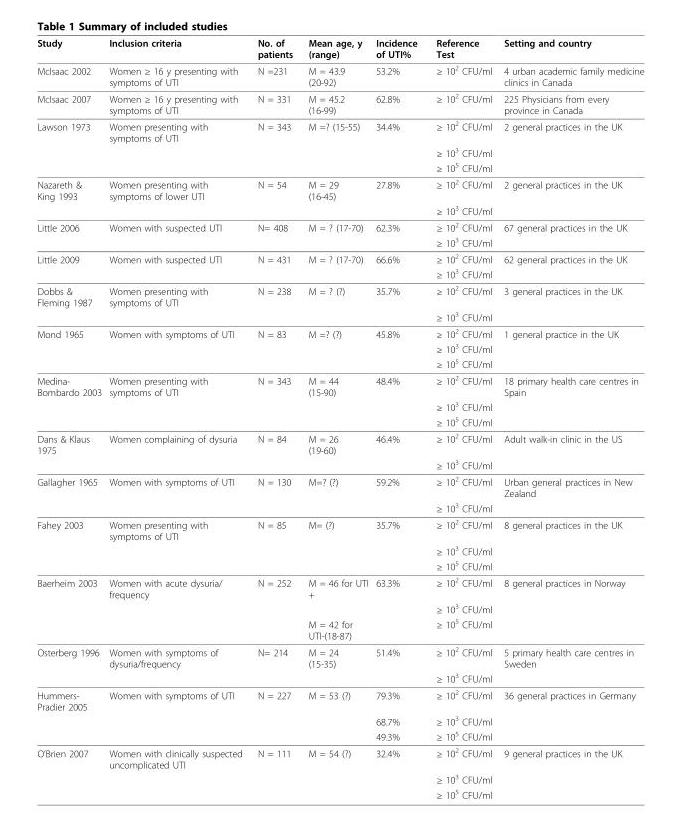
<table><thead><tr><td>Study</td><td>Inclusion criteria</td><td>No. of patients</td><td>Mean age, y (range)</td><td>Incidence of UTI%</td><td>Reference Test</td><td>Setting and country</td></tr></thead><tbody><tr><td>McIsaac 2002</td><td>Women ≥ 16 y presenting with symptoms of UTI</td><td>N =231</td><td>M = 43.9 (20-92)</td><td>53.2%</td><td>≥ 10<sup>2</sup> CFU/ml</td><td>4 urban academic family medicine clinics in Canada</td></tr><tr><td>McIsaac 2007</td><td>Women ≥ 16 y presenting with symptoms of UTI</td><td>N = 331</td><td>M = 45.2 (16-99)</td><td>62.8%</td><td>≥ 10<sup>2</sup> CFU/ml</td><td>225 Physicians from every province in Canada</td></tr><tr><td rowspan="3">Lawson 1973</td><td>Women presenting with symptoms of UTI</td><td>N = 343</td><td>M =? (15-55)</td><td>34.4%</td><td>≥ 10<sup>2</sup> CFU/ml</td><td>2 general practices in the UK</td></tr><tr><td></td><td></td><td></td><td></td><td>≥ 10<sup>3</sup> CFU/ml</td><td></td></tr><tr><td></td><td></td><td></td><td></td><td>≥ 10<sup>5</sup> CFU/ml</td><td></td></tr><tr><td rowspan="2">Nazareth &amp; King 1993</td><td>Women presenting with symptoms of lower UTI</td><td>N = 54</td><td>M = 29 (16-45)</td><td>27.8%</td><td>≥ 10<sup>2</sup> CFU/ml</td><td>2 general practices in the UK</td></tr><tr><td></td><td></td><td></td><td></td><td>≥ 10<sup>3</sup> CFU/ml</td><td></td></tr><tr><td rowspan="2">Little 2006</td><td>Women with suspected UTI</td><td>N= 408</td><td>M = ? (17-70)</td><td>62.3%</td><td>≥ 10<sup>2</sup> CFU/ml</td><td>67 general practices in the UK</td></tr><tr><td></td><td></td><td></td><td></td><td>≥ 10<sup>3</sup> CFU/ml</td><td></td></tr><tr><td rowspan="2">Little 2009</td><td>Women with suspected UTI</td><td>N = 431</td><td>M = ? (17-70)</td><td>66.6%</td><td>≥ 10<sup>2</sup> CFU/ml</td><td>62 general practices in the UK</td></tr><tr><td></td><td></td><td></td><td></td><td>≥ 10<sup>3</sup> CFU/ml</td><td></td></tr><tr><td rowspan="2">Dobbs &amp; Fleming 1987</td><td>Women presenting with symptoms of UTI</td><td>N = 238</td><td>M = ? (?)</td><td>35.7%</td><td>≥ 10<sup>2</sup> CFU/ml</td><td>3 general practices in the UK</td></tr><tr><td></td><td></td><td></td><td></td><td>≥ 10<sup>3</sup> CFU/ml</td><td></td></tr><tr><td rowspan="3">Mond 1965</td><td>Women with symptoms of UTI</td><td>N = 83</td><td>M =? (?)</td><td>45.8%</td><td>≥ 10<sup>2</sup> CFU/ml</td><td>1 general practice in the UK</td></tr><tr><td></td><td></td><td></td><td></td><td>≥ 10<sup>3</sup> CFU/ml</td><td></td></tr><tr><td></td><td></td><td></td><td></td><td>≥ 10<sup>5</sup> CFU/ml</td><td></td></tr><tr><td rowspan="3">Medina- Bombardo 2003</td><td>Women presenting with symptoms of UTI</td><td>N = 343</td><td>M = 44 (15-90)</td><td>48.4%</td><td>≥ 10<sup>2</sup> CFU/ml</td><td>18 primary health care centres in Spain</td></tr><tr><td></td><td></td><td></td><td></td><td>≥ 10<sup>3</sup> CFU/ml</td><td></td></tr><tr><td></td><td></td><td></td><td></td><td>≥ 10<sup>5</sup> CFU/ml</td><td></td></tr><tr><td rowspan="2">Dans &amp; Klaus 1975</td><td>Women complaining of dysuria</td><td>N = 84</td><td>M = 26 (19-60)</td><td>46.4%</td><td>≥ 10<sup>2</sup> CFU/ml</td><td>Adult walk-in clinic in the US</td></tr><tr><td></td><td></td><td></td><td></td><td>≥ 10<sup>3</sup> CFU/ml</td><td></td></tr><tr><td rowspan="2">Gallagher 1965</td><td>Women with symptoms of UTI</td><td>N = 130</td><td>M=? (?)</td><td>59.2%</td><td>≥ 10<sup>2</sup> CFU/ml</td><td>Urban general practices in New Zealand</td></tr><tr><td></td><td></td><td></td><td></td><td>≥ 10<sup>3</sup> CFU/ml</td><td></td></tr><tr><td rowspan="3">Fahey 2003</td><td>Women presenting with symptoms of UTI</td><td>N = 85</td><td>M= (?)</td><td>35.7%</td><td>≥ 10<sup>2</sup> CFU/ml</td><td>8 general practices in the UK</td></tr><tr><td></td><td></td><td></td><td></td><td>≥ 10<sup>3</sup> CFU/ml</td><td></td></tr><tr><td></td><td></td><td></td><td></td><td>≥ 10<sup>5</sup> CFU/ml</td><td></td></tr><tr><td rowspan="3">Baerheim 2003</td><td>Women with acute dysuria/ frequency</td><td>N = 252</td><td>M = 46 for UTI +</td><td>63.3%</td><td>≥ 10<sup>2</sup> CFU/ml</td><td>8 general practices in Norway</td></tr><tr><td></td><td></td><td></td><td></td><td>≥ 10<sup>3</sup> CFU/ml</td><td></td></tr><tr><td></td><td></td><td>M = 42 for UTI-(18-87)</td><td></td><td>≥ 10<sup>5</sup> CFU/ml</td><td></td></tr><tr><td rowspan="2">Osterberg 1996</td><td>Women with symptoms of dysuria/frequency</td><td>N= 214</td><td>M = 24 (15-35)</td><td>51.4%</td><td>≥ 10<sup>2</sup> CFU/ml</td><td>5 primary health care centres in Sweden</td></tr><tr><td></td><td></td><td></td><td></td><td>≥ 10<sup>3</sup> CFU/ml</td><td></td></tr><tr><td rowspan="3">Hummers- Pradier 2005</td><td>Women with symptoms of UTI</td><td>N = 227</td><td>M = 53 (?)</td><td>79.3%</td><td>≥ 10<sup>2</sup> CFU/ml</td><td>36 general practices in Germany</td></tr><tr><td></td><td></td><td></td><td>68.7%</td><td>≥ 10<sup>3</sup> CFU/ml</td><td></td></tr><tr><td></td><td></td><td></td><td>49.3%</td><td>≥ 10<sup>5</sup> CFU/ml</td><td></td></tr><tr><td rowspan="3">O’Brien 2007</td><td>Women with clinically suspected uncomplicated UTI</td><td>N = 111</td><td>M = 54 (?)</td><td>32.4%</td><td>≥ 10<sup>2</sup> CFU/ml</td><td>9 general practices in the UK</td></tr><tr><td></td><td></td><td></td><td></td><td>≥ 10<sup>3</sup> CFU/ml</td><td></td></tr><tr><td></td><td></td><td></td><td></td><td>≥ 10<sup>5</sup> CFU/ml</td><td></td></tr></tbody></table>